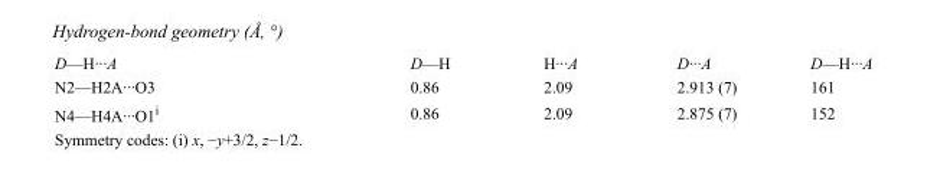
<table><tbody><tr><td>D—H···A</td><td>D—H</td><td>H···A</td><td>D···A</td><td>D—H···A</td></tr><tr><td>N2—H2A···O3</td><td>0.86</td><td>2.09</td><td>2.913 (7)</td><td>161</td></tr><tr><td>N4—H4A···O1<sup>i</sup></td><td>0.86</td><td>2.09</td><td>2.875 (7)</td><td>152</td></tr></tbody></table>